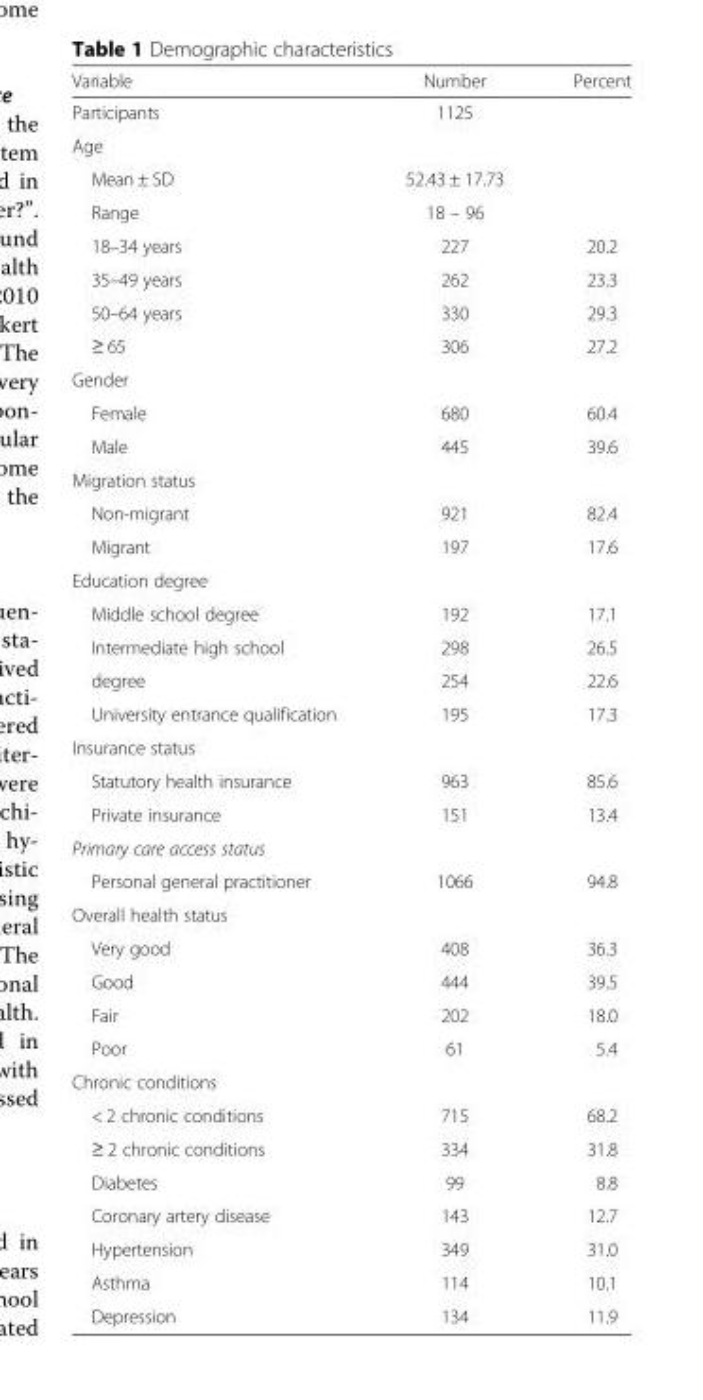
<table><thead><tr><td>Variable</td><td>Number</td><td>Percent</td></tr></thead><tbody><tr><td>Participants</td><td>1125</td><td></td></tr><tr><td colspan="3">Age</td></tr><tr><td>Mean ± SD</td><td>52.43 ± 17.73</td><td></td></tr><tr><td>Range</td><td>18 – 96</td><td></td></tr><tr><td>18–34 years</td><td>227</td><td>20.2</td></tr><tr><td>35–49 years</td><td>262</td><td>23.3</td></tr><tr><td>50–64 years</td><td>330</td><td>29.3</td></tr><tr><td>≥ 65</td><td>306</td><td>27.2</td></tr><tr><td colspan="3">Gender</td></tr><tr><td>Female</td><td>680</td><td>60.4</td></tr><tr><td>Male</td><td>445</td><td>39.6</td></tr><tr><td colspan="3">Migration status</td></tr><tr><td>Non-migrant</td><td>921</td><td>82.4</td></tr><tr><td>Migrant</td><td>197</td><td>17.6</td></tr><tr><td colspan="3">Education degree</td></tr><tr><td>Middle school degree</td><td>192</td><td>17.1</td></tr><tr><td>Intermediate high school</td><td>298</td><td>26.5</td></tr><tr><td>degree</td><td>254</td><td>22.6</td></tr><tr><td>University entrance qualification</td><td>195</td><td>17.3</td></tr><tr><td colspan="3">Insurance status</td></tr><tr><td>Statutory health insurance</td><td>963</td><td>85.6</td></tr><tr><td>Private insurance</td><td>151</td><td>13.4</td></tr><tr><td colspan="3">Primary care access status</td></tr><tr><td>Personal general practitioner</td><td>1066</td><td>94.8</td></tr><tr><td colspan="3">Overall health status</td></tr><tr><td>Very good</td><td>408</td><td>36.3</td></tr><tr><td>Good</td><td>444</td><td>39.5</td></tr><tr><td>Fair</td><td>202</td><td>18.0</td></tr><tr><td>Poor</td><td>61</td><td>5.4</td></tr><tr><td colspan="3">Chronic conditions</td></tr><tr><td>&lt; 2 chronic conditions</td><td>715</td><td>68.2</td></tr><tr><td>≥ 2 chronic conditions</td><td>334</td><td>31.8</td></tr><tr><td>Diabetes</td><td>99</td><td>8.8</td></tr><tr><td>Coronary artery disease</td><td>143</td><td>12.7</td></tr><tr><td>Hypertension</td><td>349</td><td>31.0</td></tr><tr><td>Asthma</td><td>114</td><td>10.1</td></tr><tr><td>Depression</td><td>134</td><td>11.9</td></tr></tbody></table>